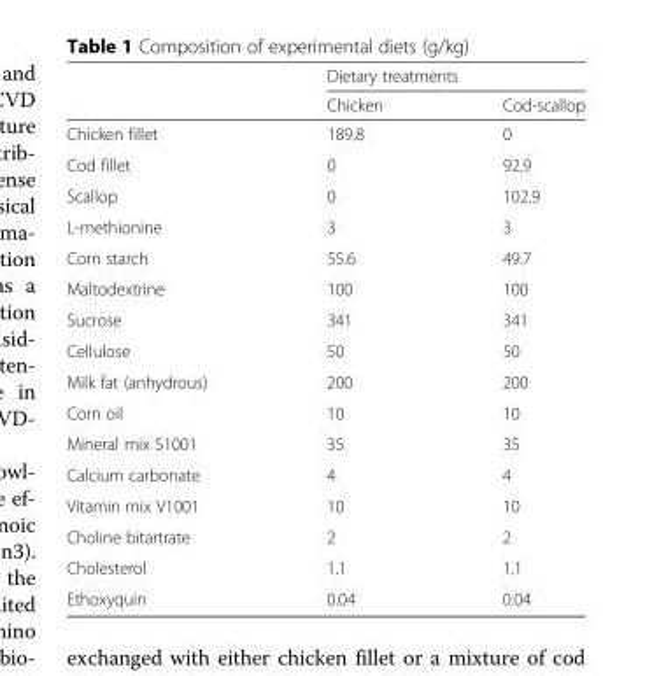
<table><thead><tr><td rowspan="2"></td><td colspan="2">Dietary treatments</td></tr><tr><td>Chicken</td><td>Cod-scallop</td></tr></thead><tbody><tr><td>Chicken fillet</td><td>189.8</td><td>0</td></tr><tr><td>Cod fillet</td><td>0</td><td>92.9</td></tr><tr><td>Scallop</td><td>0</td><td>102.9</td></tr><tr><td>L-methionine</td><td>3</td><td>3</td></tr><tr><td>Corn starch</td><td>55.6</td><td>49.7</td></tr><tr><td>Maltodextrine</td><td>100</td><td>100</td></tr><tr><td>Sucrose</td><td>341</td><td>341</td></tr><tr><td>Cellulose</td><td>50</td><td>50</td></tr><tr><td>Milk fat (anhydrous)</td><td>200</td><td>200</td></tr><tr><td>Corn oil</td><td>10</td><td>10</td></tr><tr><td>Mineral mix S1001</td><td>35</td><td>35</td></tr><tr><td>Calcium carbonate</td><td>4</td><td>4</td></tr><tr><td>Vitamin mix V1001</td><td>10</td><td>10</td></tr><tr><td>Choline bitartrate</td><td>2</td><td>2</td></tr><tr><td>Cholesterol</td><td>1.1</td><td>1.1</td></tr><tr><td>Ethoxyquin</td><td>0.04</td><td>0.04</td></tr></tbody></table>